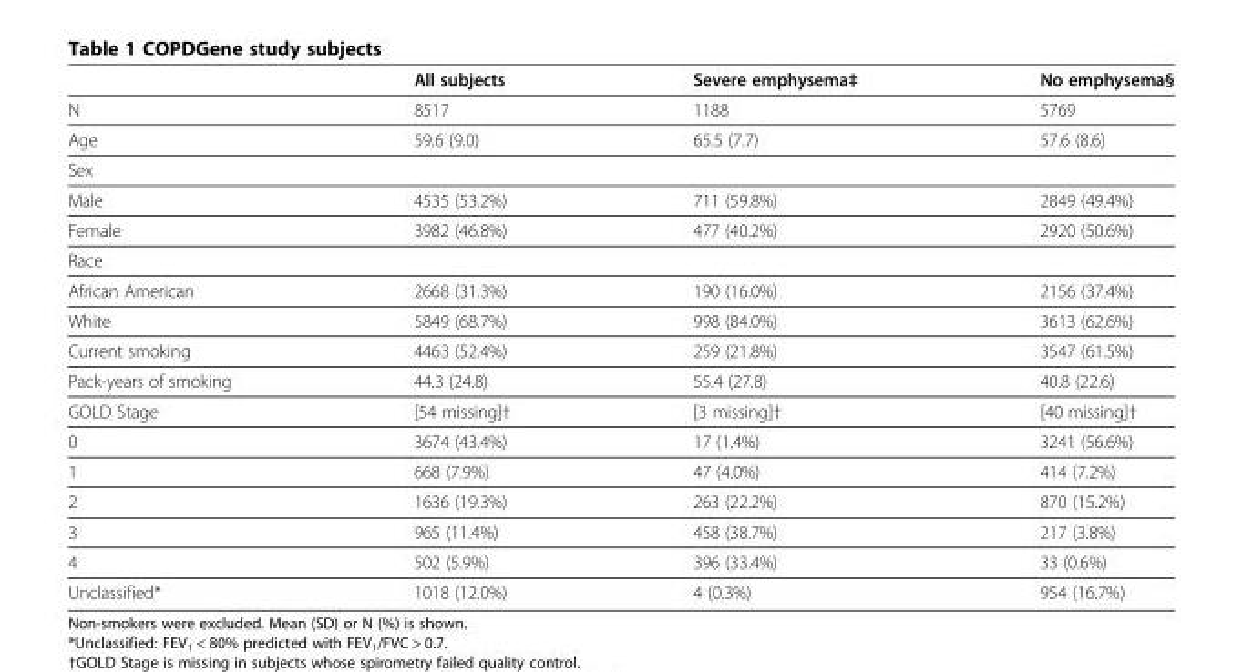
<table><thead><tr><td></td><td>All subjects</td><td>Severe emphysema‡</td><td>No emphysema§</td></tr></thead><tbody><tr><td>N</td><td>8517</td><td>1188</td><td>5769</td></tr><tr><td>Age</td><td>59.6 (9.0)</td><td>65.5 (7.7)</td><td>57.6 (8.6)</td></tr><tr><td colspan="4">Sex</td></tr><tr><td>Male</td><td>4535 (53.2%)</td><td>711 (59.8%)</td><td>2849 (49.4%)</td></tr><tr><td>Female</td><td>3982 (46.8%)</td><td>477 (40.2%)</td><td>2920 (50.6%)</td></tr><tr><td colspan="4">Race</td></tr><tr><td>African American</td><td>2668 (31.3%)</td><td>190 (16.0%)</td><td>2156 (37.4%)</td></tr><tr><td>White</td><td>5849 (68.7%)</td><td>998 (84.0%)</td><td>3613 (62.6%)</td></tr><tr><td>Current smoking</td><td>4463 (52.4%)</td><td>259 (21.8%)</td><td>3547 (61.5%)</td></tr><tr><td>Pack-years of smoking</td><td>44.3 (24.8)</td><td>55.4 (27.8)</td><td>40.8 (22.6)</td></tr><tr><td>GOLD Stage</td><td>[54 missing]†</td><td>[3 missing]†</td><td>[40 missing]†</td></tr><tr><td>0</td><td>3674 (43.4%)</td><td>17 (1.4%)</td><td>3241 (56.6%)</td></tr><tr><td>1</td><td>668 (7.9%)</td><td>47 (4.0%)</td><td>414 (7.2%)</td></tr><tr><td>2</td><td>1636 (19.3%)</td><td>263 (22.2%)</td><td>870 (15.2%)</td></tr><tr><td>3</td><td>965 (11.4%)</td><td>458 (38.7%)</td><td>217 (3.8%)</td></tr><tr><td>4</td><td>502 (5.9%)</td><td>396 (33.4%)</td><td>33 (0.6%)</td></tr><tr><td>Unclassified*</td><td>1018 (12.0%)</td><td>4 (0.3%)</td><td>954 (16.7%)</td></tr></tbody></table>